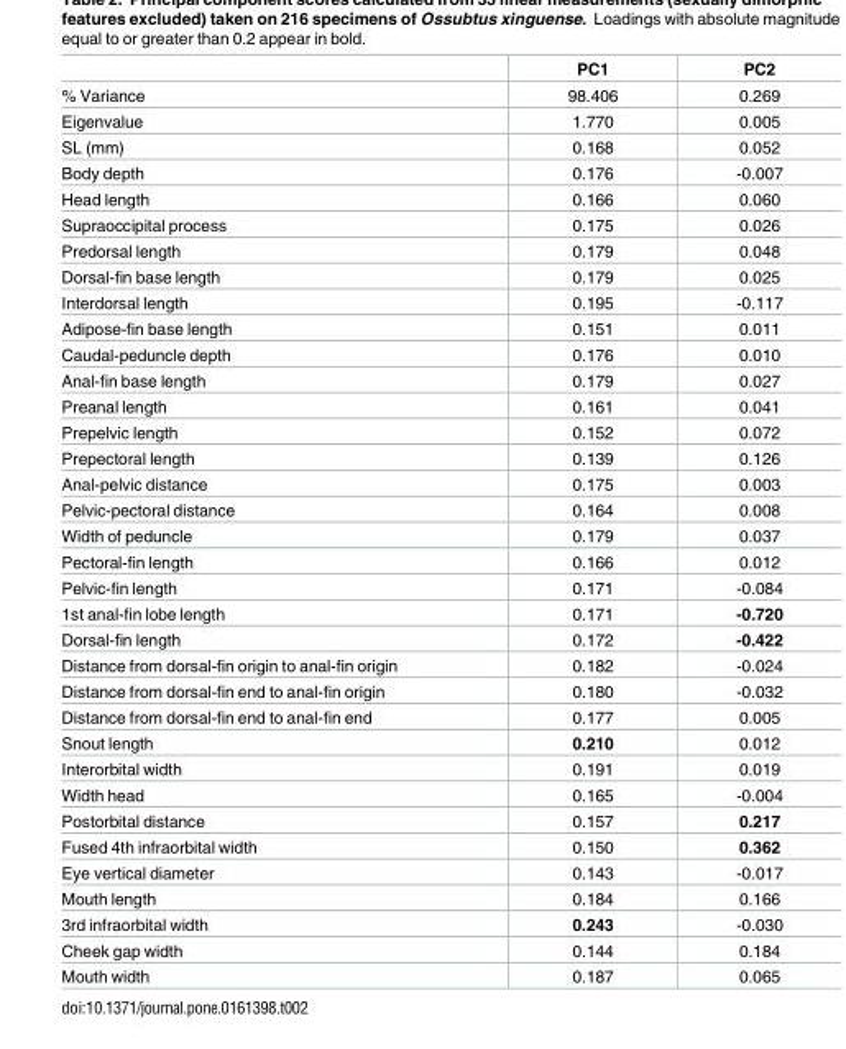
<table><thead><tr><td></td><td>PC1</td><td>PC2</td></tr></thead><tbody><tr><td>% Variance</td><td>98.406</td><td>0.269</td></tr><tr><td>Eigenvalue</td><td>1.770</td><td>0.005</td></tr><tr><td>SL (mm)</td><td>0.168</td><td>0.052</td></tr><tr><td>Body depth</td><td>0.176</td><td>-0.007</td></tr><tr><td>Head length</td><td>0.166</td><td>0.060</td></tr><tr><td>Supraoccipital process</td><td>0.175</td><td>0.026</td></tr><tr><td>Predorsal length</td><td>0.179</td><td>0.048</td></tr><tr><td>Dorsal-fin base length</td><td>0.179</td><td>0.025</td></tr><tr><td>Interdorsal length</td><td>0.195</td><td>-0.117</td></tr><tr><td>Adipose-fin base length</td><td>0.151</td><td>0.011</td></tr><tr><td>Caudal-peduncle depth</td><td>0.176</td><td>0.010</td></tr><tr><td>Anal-fin base length</td><td>0.179</td><td>0.027</td></tr><tr><td>Preanal length</td><td>0.161</td><td>0.041</td></tr><tr><td>Prepelvic length</td><td>0.152</td><td>0.072</td></tr><tr><td>Prepectoral length</td><td>0.139</td><td>0.126</td></tr><tr><td>Anal-pelvic distance</td><td>0.175</td><td>0.003</td></tr><tr><td>Pelvic-pectoral distance</td><td>0.164</td><td>0.008</td></tr><tr><td>Width of peduncle</td><td>0.179</td><td>0.037</td></tr><tr><td>Pectoral-fin length</td><td>0.166</td><td>0.012</td></tr><tr><td>Pelvic-fin length</td><td>0.171</td><td>-0.084</td></tr><tr><td>1st anal-fin lobe length</td><td>0.171</td><td>-0.720</td></tr><tr><td>Dorsal-fin length</td><td>0.172</td><td>-0.422</td></tr><tr><td>Distance from dorsal-fin origin to anal-fin origin</td><td>0.182</td><td>-0.024</td></tr><tr><td>Distance from dorsal-fin end to anal-fin origin</td><td>0.180</td><td>-0.032</td></tr><tr><td>Distance from dorsal-fin end to anal-fin end</td><td>0.177</td><td>0.005</td></tr><tr><td>Snout length</td><td>0.210</td><td>0.012</td></tr><tr><td>Interorbital width</td><td>0.191</td><td>0.019</td></tr><tr><td>Width head</td><td>0.165</td><td>-0.004</td></tr><tr><td>Postorbital distance</td><td>0.157</td><td>0.217</td></tr><tr><td>Fused 4th infraorbital width</td><td>0.150</td><td>0.362</td></tr><tr><td>Eye vertical diameter</td><td>0.143</td><td>-0.017</td></tr><tr><td>Mouth length</td><td>0.184</td><td>0.166</td></tr><tr><td>3rd infraorbital width</td><td>0.243</td><td>-0.030</td></tr><tr><td>Cheek gap width</td><td>0.144</td><td>0.184</td></tr><tr><td>Mouth width</td><td>0.187</td><td>0.065</td></tr></tbody></table>